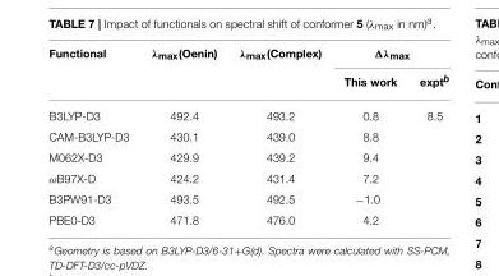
<table><thead><tr><td rowspan="2">Functional</td><td rowspan="2">λ<sub>max</sub>(Oenin)</td><td rowspan="2">λ<sub>max</sub>(Complex)</td><td colspan="2">Δλ<sub>max</sub></td></tr><tr><td>This work</td><td>expt<sup>b</sup></td></tr></thead><tbody><tr><td>B3LYP-D3</td><td>492.4</td><td>493.2</td><td>0.8</td><td>8.5</td></tr><tr><td>CAM-B3LYP-D3</td><td>430.1</td><td>439.0</td><td>8.8</td><td></td></tr><tr><td>M062X-D3</td><td>429.9</td><td>439.2</td><td>9.4</td><td></td></tr><tr><td>ωB97X-D</td><td>424.2</td><td>431.4</td><td>7.2</td><td></td></tr><tr><td>B3PW91-D3</td><td>493.5</td><td>492.5</td><td>−1.0</td><td></td></tr><tr><td>PBE0-D3</td><td>471.8</td><td>476.0</td><td>4.2</td><td></td></tr></tbody></table>